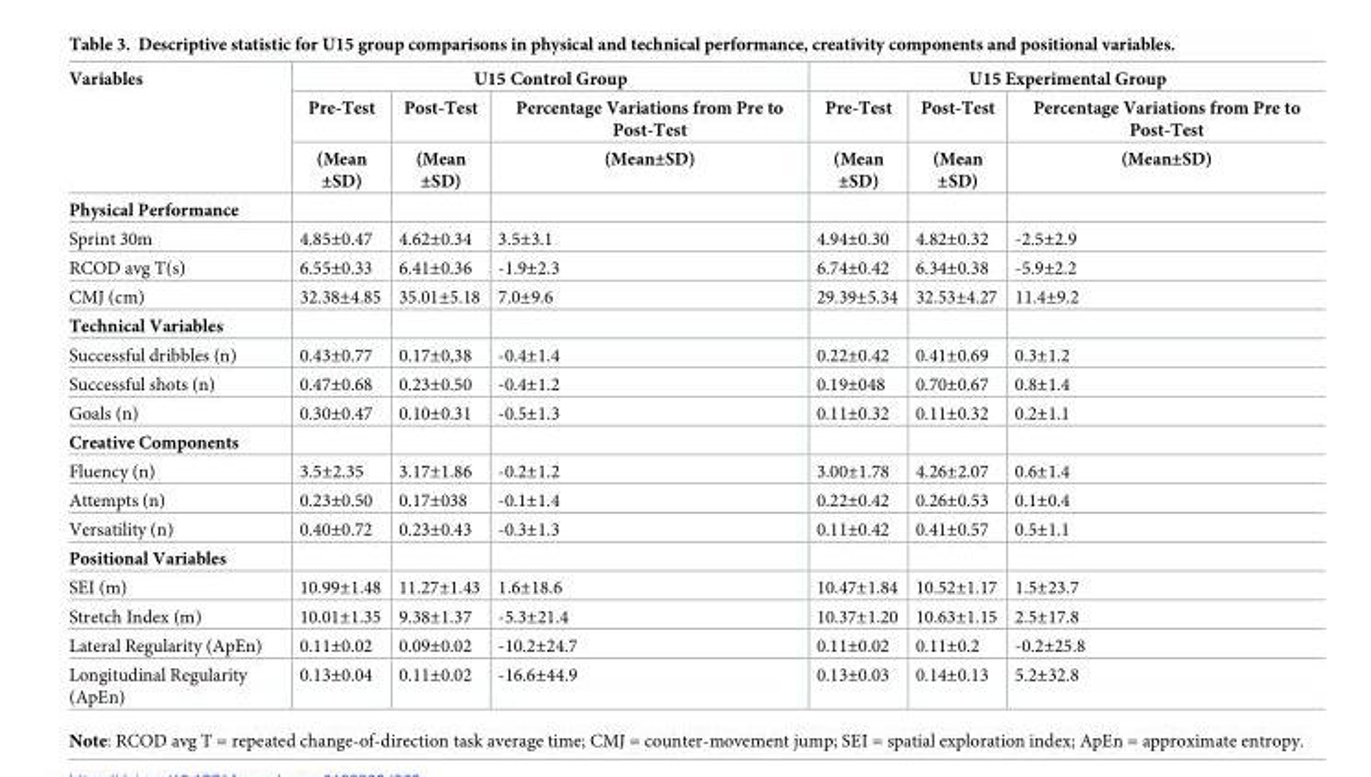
<table><thead><tr><td rowspan="3">Variables</td><td colspan="3">U15 Control Group</td><td colspan="3">U15 Experimental Group</td></tr><tr><td rowspan="2">Pre-Test (Mean ±SD)</td><td rowspan="2">Post-Test (Mean ±SD)</td><td rowspan="2">Percentage Variations from Pre to Post-Test (Mean±SD)</td><td rowspan="2">Pre-Test (Mean ±SD)</td><td rowspan="2">Post-Test (Mean ±SD)</td><td rowspan="2">Percentage Variations from Pre to Post-Test (Mean±SD)</td></tr><tr></tr></thead><tbody><tr><td colspan="7">Physical Performance</td></tr><tr><td>Sprint 30m</td><td>4.85±0.47</td><td>4.62±0.34</td><td>3.5±3.1</td><td>4.94±0.30</td><td>4.82±0.32</td><td>-2.5±2.9</td></tr><tr><td>RCOD avg T(s)</td><td>6.55±0.33</td><td>6.41±0.36</td><td>-1.9±2.3</td><td>6.74±0.42</td><td>6.34±0.38</td><td>-5.9±2.2</td></tr><tr><td>CMJ (cm)</td><td>32.38±4.85</td><td>35.01±5.18</td><td>7.0±9.6</td><td>29.39±5.34</td><td>32.53±4.27</td><td>11.4±9.2</td></tr><tr><td colspan="7">Technical Variables</td></tr><tr><td>Successful dribbles (n)</td><td>0.43±0.77</td><td>0.17±0,38</td><td>-0.4±1.4</td><td>0.22±0.42</td><td>0.41±0.69</td><td>0.3±1.2</td></tr><tr><td>Successful shots (n)</td><td>0.47±0.68</td><td>0.23±0.50</td><td>-0.4±1.2</td><td>0.19±048</td><td>0.70±0.67</td><td>0.8±1.4</td></tr><tr><td>Goals (n)</td><td>0.30±0.47</td><td>0.10±0.31</td><td>-0.5±1.3</td><td>0.11±0.32</td><td>0.11±0.32</td><td>0.2±1.1</td></tr><tr><td colspan="7">Creative Components</td></tr><tr><td>Fluency (n)</td><td>3.5±2.35</td><td>3.17±1.86</td><td>-0.2±1.2</td><td>3.00±1.78</td><td>4.26±2.07</td><td>0.6±1.4</td></tr><tr><td>Attempts (n)</td><td>0.23±0.50</td><td>0.17±038</td><td>-0.1±1.4</td><td>0.22±0.42</td><td>0.26±0.53</td><td>0.1±0.4</td></tr><tr><td>Versatility (n)</td><td>0.40±0.72</td><td>0.23±0.43</td><td>-0.3±1.3</td><td>0.11±0.42</td><td>0.41±0.57</td><td>0.5±1.1</td></tr><tr><td colspan="7">Positional Variables</td></tr><tr><td>SEI (m)</td><td>10.99±1.48</td><td>11.27±1.43</td><td>1.6±18.6</td><td>10.47±1.84</td><td>10.52±1.17</td><td>1.5±23.7</td></tr><tr><td>Stretch Index (m)</td><td>10.01±1.35</td><td>9.38±1.37</td><td>-5.3±21.4</td><td>10.37±1.20</td><td>10.63±1.15</td><td>2.5±17.8</td></tr><tr><td>Lateral Regularity (ApEn)</td><td>0.11±0.02</td><td>0.09±0.02</td><td>-10.2±24.7</td><td>0.11±0.02</td><td>0.11±0.2</td><td>-0.2±25.8</td></tr><tr><td>Longitudinal Regularity (ApEn)</td><td>0.13±0.04</td><td>0.11±0.02</td><td>-16.6±44.9</td><td>0.13±0.03</td><td>0.14±0.13</td><td>5.2±32.8</td></tr></tbody></table>